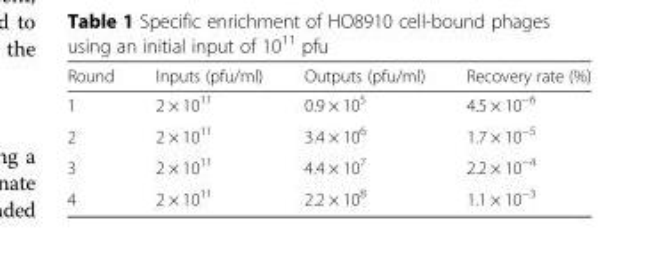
<table><thead><tr><td>Round</td><td>Inputs (pfu/ml)</td><td>Outputs (pfu/ml)</td><td>Recovery rate (%)</td></tr></thead><tbody><tr><td>1</td><td>2 × 10<sup>11</sup></td><td>0.9 × 10<sup>5</sup></td><td>4.5 × 10<sup>−6</sup></td></tr><tr><td>2</td><td>2 × 10<sup>11</sup></td><td>3.4 × 10<sup>6</sup></td><td>1.7 × 10<sup>−5</sup></td></tr><tr><td>3</td><td>2 × 10<sup>11</sup></td><td>4.4 × 10<sup>7</sup></td><td>2.2 × 10<sup>−4</sup></td></tr><tr><td>4</td><td>2 × 10<sup>11</sup></td><td>2.2 × 10<sup>8</sup></td><td>1.1 × 10<sup>−3</sup></td></tr></tbody></table>